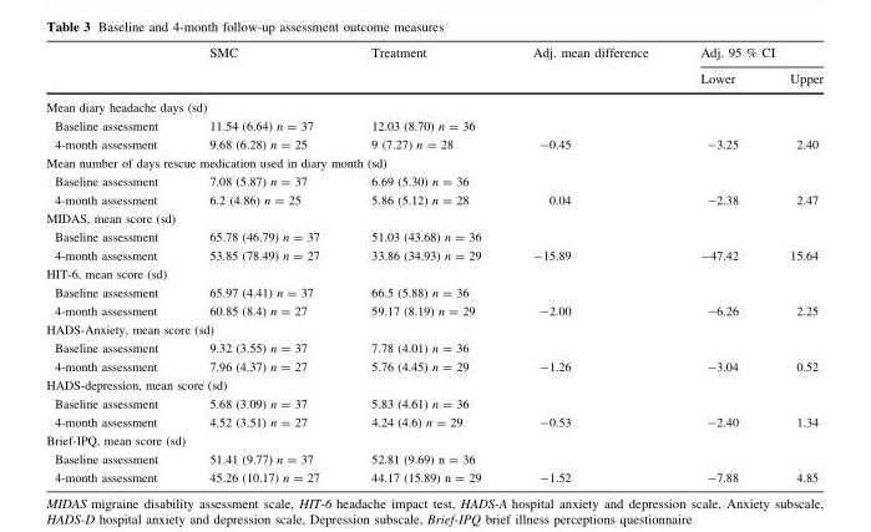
<table><thead><tr><td rowspan="2"></td><td rowspan="2">SMC</td><td rowspan="2">Treatment</td><td rowspan="2">Adj. mean difference</td><td colspan="2">Adj. 95 % CI</td></tr><tr><td>Lower</td><td>Upper</td></tr></thead><tbody><tr><td colspan="6">Mean diary headache days (sd)</td></tr><tr><td>Baseline assessment</td><td>11.54 (6.64) n = 37</td><td>12.03 (8.70) n = 36</td><td></td><td></td><td></td></tr><tr><td>4-month assessment</td><td>9.68 (6.28) n = 25</td><td>9 (7.27) n = 28</td><td>-0.45</td><td>-3.25</td><td>2.40</td></tr><tr><td colspan="6">Mean number of days rescue medication used in diary month (sd)</td></tr><tr><td>Baseline assessment</td><td>7.08 (5.87) n = 37</td><td>6.69 (5.30) n = 36</td><td></td><td></td><td></td></tr><tr><td>4-month assessment</td><td>6.2 (4.86) n = 25</td><td>5.86 (5.12) n = 28</td><td>0.04</td><td>-2.38</td><td>2.47</td></tr><tr><td colspan="6">MIDAS, mean score (sd)</td></tr><tr><td>Baseline assessment</td><td>65.78 (46.79) n = 37</td><td>51.03 (43.68) n = 36</td><td></td><td></td><td></td></tr><tr><td>4-month assessment</td><td>53.85 (78.49) n = 27</td><td>33.86 (34.93) n = 29</td><td>-15.89</td><td>-47.42</td><td>15.64</td></tr><tr><td colspan="6">HIT-6, mean score (sd)</td></tr><tr><td>Baseline assessment</td><td>65.97 (4.41) n = 37</td><td>66.5 (5.88) n = 36</td><td></td><td></td><td></td></tr><tr><td>4-month assessment</td><td>60.85 (8.4) n = 27</td><td>59.17 (8.19) n = 29</td><td>-2.00</td><td>-6.26</td><td>2.25</td></tr><tr><td colspan="6">HADS-Anxiety, mean score (sd)</td></tr><tr><td>Baseline assessment</td><td>9.32 (3.55) n = 37</td><td>7.78 (4.01) n = 36</td><td></td><td></td><td></td></tr><tr><td>4-month assessment</td><td>7.96 (4.37) n = 27</td><td>5.76 (4.45) n = 29</td><td>-1.26</td><td>-3.04</td><td>0.52</td></tr><tr><td colspan="6">HADS-depression, mean score (sd)</td></tr><tr><td>Baseline assessment</td><td>5.68 (3.09) n = 37</td><td>5.83 (4.61) n = 36</td><td></td><td></td><td></td></tr><tr><td>4-month assessment</td><td>4.52 (3.51) n = 27</td><td>4.24 (4.6) n = 29</td><td>-0.53</td><td>-2.40</td><td>1.34</td></tr><tr><td colspan="6">Brief-IPQ, mean score (sd)</td></tr><tr><td>Baseline assessment</td><td>51.41 (9.77) n = 37</td><td>52.81 (9.69) n = 36</td><td></td><td></td><td></td></tr><tr><td>4-month assessment</td><td>45.26 (10.17) n = 27</td><td>44.17 (15.89) n = 29</td><td>-1.52</td><td>-7.88</td><td>4.85</td></tr></tbody></table>